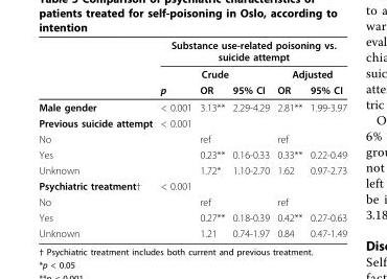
<table><thead><tr><td rowspan="3"></td><td colspan="5">Substance use-related poisoning vs. suicide attempt</td></tr><tr><td colspan="3">Crude</td><td colspan="2">Adjusted</td></tr><tr><td>p</td><td>OR</td><td>95% CI</td><td>OR</td><td>95% CI</td></tr></thead><tbody><tr><td>Male gender</td><td>&lt; 0.001</td><td>3.13**</td><td>2.29-4.29</td><td>2.81**</td><td>1.99-3.97</td></tr><tr><td>Previous suicide attempt</td><td>&lt; 0.001</td><td></td><td></td><td></td><td></td></tr><tr><td>No</td><td></td><td>ref</td><td></td><td>ref</td><td></td></tr><tr><td>Yes</td><td></td><td>0.23**</td><td>0.16-0.33</td><td>0.33**</td><td>0.22-0.49</td></tr><tr><td>Unknown</td><td></td><td>1.72*</td><td>1.10-2.70</td><td>1.62</td><td>0.97-2.73</td></tr><tr><td>Psychiatric treatment†</td><td>&lt; 0.001</td><td></td><td></td><td></td><td></td></tr><tr><td>No</td><td></td><td>ref</td><td></td><td>ref</td><td></td></tr><tr><td>Yes</td><td></td><td>0.27**</td><td>0.18-0.39</td><td>0.42**</td><td>0.27-0.63</td></tr><tr><td>Unknown</td><td></td><td>1.21</td><td>0.74-1.97</td><td>0.84</td><td>0.47-1.49</td></tr></tbody></table>